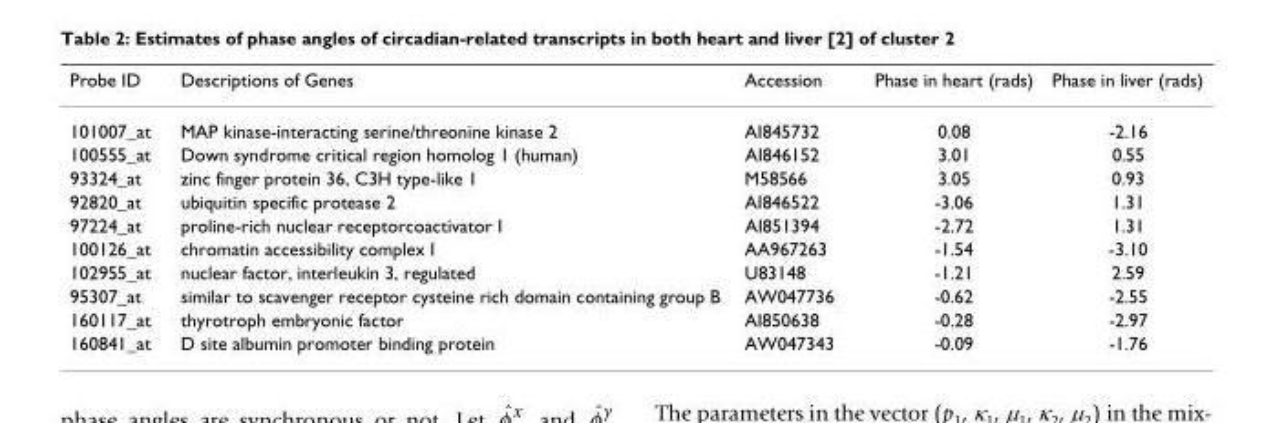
<table><thead><tr><td>Probe ID</td><td>Descriptions of Genes</td><td>Accession</td><td>Phase in heart (rads)</td><td>Phase in liver (rads)</td></tr></thead><tbody><tr><td>101007_at</td><td>MAP kinase-interacting serine/threonine kinase 2</td><td>AI845732</td><td>0.08</td><td>-2.16</td></tr><tr><td>100555_at</td><td>Down syndrome critical region homolog 1 (human)</td><td>AI846152</td><td>3.01</td><td>0.55</td></tr><tr><td>93324_at</td><td>zinc finger protein 36, C3H type-like 1</td><td>M58566</td><td>3.05</td><td>0.93</td></tr><tr><td>92820_at</td><td>ubiquitin specific protease 2</td><td>AI846522</td><td>-3.06</td><td>1.31</td></tr><tr><td>97224_at</td><td>proline-rich nuclear receptorcoactivator I</td><td>AI851394</td><td>-2.72</td><td>1.31</td></tr><tr><td>100126_at</td><td>chromatin accessibility complex I</td><td>AA967263</td><td>-1.54</td><td>-3.10</td></tr><tr><td>102955_at</td><td>nuclear factor, interleukin 3, regulated</td><td>U83148</td><td>-1.21</td><td>2.59</td></tr><tr><td>95307_at</td><td>similar to scavenger receptor cysteine rich domain containing group B</td><td>AW047736</td><td>-0.62</td><td>-2.55</td></tr><tr><td>160117_at</td><td>thyrotroph embryonic factor</td><td>AI850638</td><td>-0.28</td><td>-2.97</td></tr><tr><td>160841_at</td><td>D site albumin promoter binding protein</td><td>AW047343</td><td>-0.09</td><td>-1.76</td></tr></tbody></table>